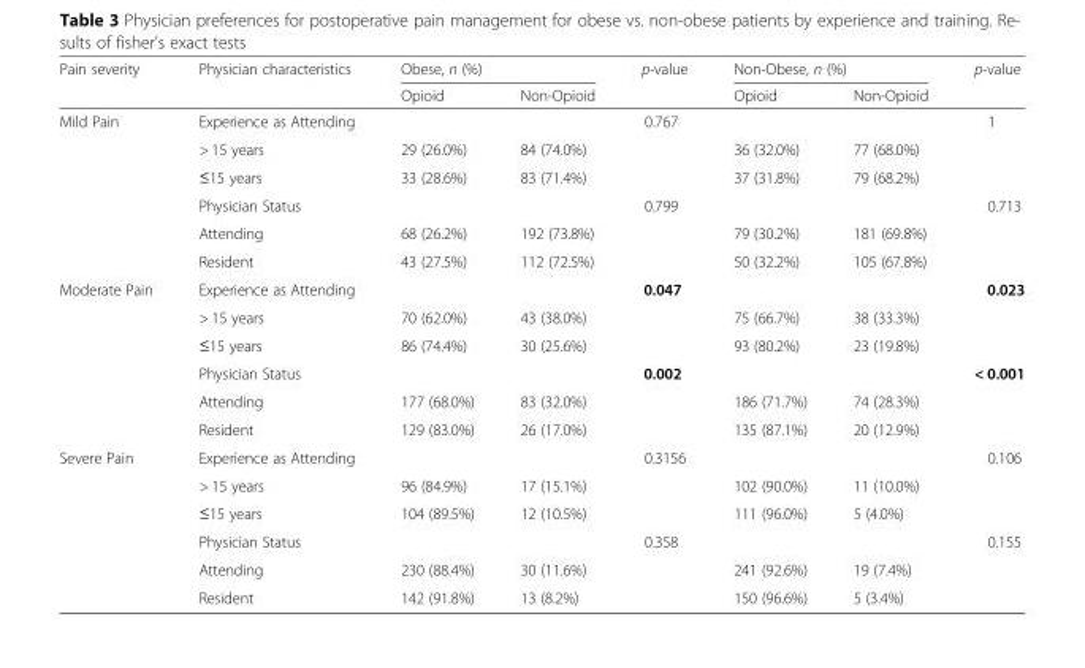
<table><thead><tr><td rowspan="2">Pain severity</td><td rowspan="2">Physician characteristics</td><td colspan="2">Obese, n (%)</td><td rowspan="2">p-value</td><td colspan="2">Non-Obese, n (%)</td><td rowspan="2">p-value</td></tr><tr><td>Opioid</td><td>Non-Opioid</td><td>Opioid</td><td>Non-Opioid</td></tr></thead><tbody><tr><td rowspan="6">Mild Pain</td><td>Experience as Attending</td><td></td><td></td><td>0.767</td><td></td><td></td><td>1</td></tr><tr><td>&gt; 15 years</td><td>29 (26.0%)</td><td>84 (74.0%)</td><td></td><td>36 (32.0%)</td><td>77 (68.0%)</td><td></td></tr><tr><td>≤15 years</td><td>33 (28.6%)</td><td>83 (71.4%)</td><td></td><td>37 (31.8%)</td><td>79 (68.2%)</td><td></td></tr><tr><td>Physician Status</td><td></td><td></td><td>0.799</td><td></td><td></td><td>0.713</td></tr><tr><td>Attending</td><td>68 (26.2%)</td><td>192 (73.8%)</td><td></td><td>79 (30.2%)</td><td>181 (69.8%)</td><td></td></tr><tr><td>Resident</td><td>43 (27.5%)</td><td>112 (72.5%)</td><td></td><td>50 (32.2%)</td><td>105 (67.8%)</td><td></td></tr><tr><td rowspan="6">Moderate Pain</td><td>Experience as Attending</td><td></td><td></td><td>0.047</td><td></td><td></td><td>0.023</td></tr><tr><td>&gt; 15 years</td><td>70 (62.0%)</td><td>43 (38.0%)</td><td></td><td>75 (66.7%)</td><td>38 (33.3%)</td><td></td></tr><tr><td>≤15 years</td><td>86 (74.4%)</td><td>30 (25.6%)</td><td></td><td>93 (80.2%)</td><td>23 (19.8%)</td><td></td></tr><tr><td>Physician Status</td><td></td><td></td><td>0.002</td><td></td><td></td><td>&lt; 0.001</td></tr><tr><td>Attending</td><td>177 (68.0%)</td><td>83 (32.0%)</td><td></td><td>186 (71.7%)</td><td>74 (28.3%)</td><td></td></tr><tr><td>Resident</td><td>129 (83.0%)</td><td>26 (17.0%)</td><td></td><td>135 (87.1%)</td><td>20 (12.9%)</td><td></td></tr><tr><td rowspan="6">Severe Pain</td><td>Experience as Attending</td><td></td><td></td><td>0.3156</td><td></td><td></td><td>0.106</td></tr><tr><td>&gt; 15 years</td><td>96 (84.9%)</td><td>17 (15.1%)</td><td></td><td>102 (90.0%)</td><td>11 (10.0%)</td><td></td></tr><tr><td>≤15 years</td><td>104 (89.5%)</td><td>12 (10.5%)</td><td></td><td>111 (96.0%)</td><td>5 (4.0%)</td><td></td></tr><tr><td>Physician Status</td><td></td><td></td><td>0.358</td><td></td><td></td><td>0.155</td></tr><tr><td>Attending</td><td>230 (88.4%)</td><td>30 (11.6%)</td><td></td><td>241 (92.6%)</td><td>19 (7.4%)</td><td></td></tr><tr><td>Resident</td><td>142 (91.8%)</td><td>13 (8.2%)</td><td></td><td>150 (96.6%)</td><td>5 (3.4%)</td><td></td></tr></tbody></table>